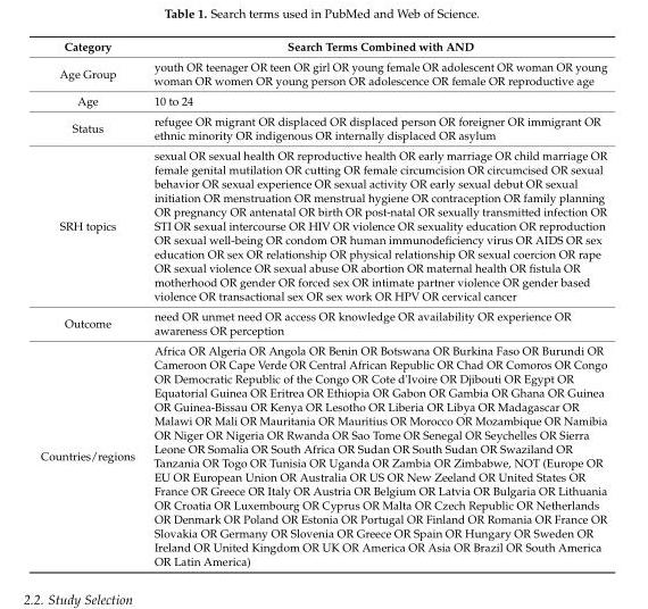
<table><thead><tr><td>Category</td><td>Search Terms Combined with AND</td></tr></thead><tbody><tr><td>Age Group</td><td>youth OR teenager OR teen OR girl OR young female OR adolescent OR woman OR young woman OR women OR young person OR adolescence OR female OR reproductive age</td></tr><tr><td>Age</td><td>10 to 24</td></tr><tr><td>Status</td><td>refugee OR migrant OR displaced OR displaced person OR foreigner OR immigrant OR ethnic minority OR indigenous OR internally displaced OR asylum</td></tr><tr><td>SRH topics</td><td>sexual OR sexual health OR reproductive health OR early marriage OR child marriage OR female genital mutilation OR cutting OR female circumcision OR circumcised OR sexual behavior OR sexual experience OR sexual activity OR early sexual debut OR sexual initiation OR menstruation OR menstrual hygiene OR contraception OR family planning OR pregnancy OR antenatal OR birth OR post-natal OR sexually transmitted infection OR STI OR sexual intercourse OR HIV OR violence OR sexuality education OR reproduction OR sexual well-being OR condom OR human immunodeficiency virus OR AIDS OR sex education OR sex OR relationship OR physical relationship OR sexual coercion OR rape OR sexual violence OR sexual abuse OR abortion OR maternal health OR fistula OR motherhood OR gender OR forced sex OR intimate partner violence OR gender based violence OR transactional sex OR sex work OR HPV OR cervical cancer</td></tr><tr><td>Outcome</td><td>need OR unmet need OR access OR knowledge OR availability OR experience OR awareness OR perception</td></tr><tr><td>Countries/regions</td><td>Africa OR Algeria OR Angola OR Benin OR Botswana OR Burkina Faso OR Burundi OR Cameroon OR Cape Verde OR Central African Republic OR Chad OR Comoros OR Congo OR Democratic Republic of the Congo OR Cote d&#x27;Ivoire OR Djibouti OR Egypt OR Equatorial Guinea OR Eritrea OR Ethiopia OR Gabon OR Gambia OR Ghana OR Guinea OR Guinea-Bissau OR Kenya OR Lesotho OR Liberia OR Libya OR Madagascar OR Malawi OR Mali OR Mauritania OR Mauritius OR Morocco OR Mozambique OR Namibia OR Niger OR Nigeria OR Rwanda OR Sao Tome OR Senegal OR Seychelles OR Sierra Leone OR Somalia OR South Africa OR Sudan OR South Sudan OR Swaziland OR Tanzania OR Togo OR Tunisia OR Uganda OR Zambia OR Zimbabwe, NOT (Europe OR EU OR European Union OR Australia OR US OR New Zeeland OR United States OR France OR Greece OR Italy OR Austria OR Belgium OR Latvia OR Bulgaria OR Lithuania OR Croatia OR Luxembourg OR Cyprus OR Malta OR Czech Republic OR Netherlands OR Denmark OR Poland OR Estonia OR Portugal OR Finland OR Romania OR France OR Slovakia OR Germany OR Slovenia OR Greece OR Spain OR Hungary OR Sweden OR Ireland OR United Kingdom OR UK OR America OR Asia OR Brazil OR South America OR Latin America)</td></tr></tbody></table>